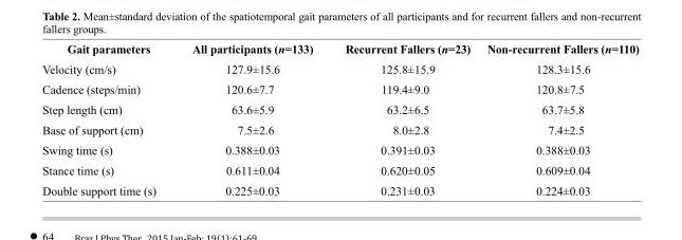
<table><thead><tr><td>Gait parameters</td><td>All participants (n=133)</td><td>Recurrent Fallers (n=23)</td><td>Non-recurrent Fallers (n=110)</td></tr></thead><tbody><tr><td>Velocity (cm/s)</td><td>127.9±15.6</td><td>125.8±15.9</td><td>128.3±15.6</td></tr><tr><td>Cadence (steps/min)</td><td>120.6±7.7</td><td>119.4±9.0</td><td>120.8±7.5</td></tr><tr><td>Step length (cm)</td><td>63.6±5.9</td><td>63.2±6.5</td><td>63.7±5.8</td></tr><tr><td>Base of support (cm)</td><td>7.5±2.6</td><td>8.0±2.8</td><td>7.4±2.5</td></tr><tr><td>Swing time (s)</td><td>0.388±0.03</td><td>0.391±0.03</td><td>0.388±0.03</td></tr><tr><td>Stance time (s)</td><td>0.611±0.04</td><td>0.620±0.05</td><td>0.609±0.04</td></tr><tr><td>Double support time (s)</td><td>0.225±0.03</td><td>0.231±0.03</td><td>0.224±0.03</td></tr></tbody></table>